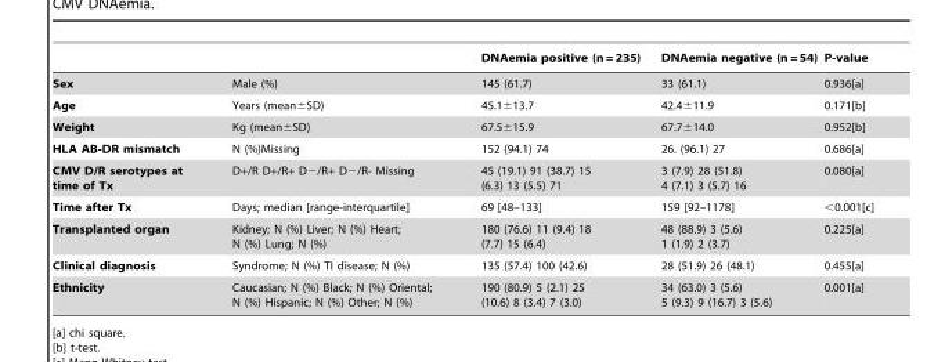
<table><thead><tr><td></td><td></td><td>DNAemia positive (n = 235)</td><td>DNAemia negative (n = 54)</td><td>P-value</td></tr></thead><tbody><tr><td>Sex</td><td>Male (%)</td><td>145 (61.7)</td><td>33 (61.1)</td><td>0.936[a]</td></tr><tr><td>Age</td><td>Years (mean±SD)</td><td>45.1±13.7</td><td>42.4±11.9</td><td>0.171[b]</td></tr><tr><td>Weight</td><td>Kg (mean±SD)</td><td>67.5±15.9</td><td>67.7±14.0</td><td>0.952[b]</td></tr><tr><td>HLA AB-DR mismatch</td><td>N (%)Missing</td><td>152 (94.1) 74</td><td>26. (96.1) 27</td><td>0.686[a]</td></tr><tr><td>CMV D/R serotypes at time of Tx</td><td>D+/R D+/R+ D−/R+ D−/R- Missing</td><td>45 (19.1) 91 (38.7) 15 (6.3) 13 (5.5) 71</td><td>3 (7.9) 28 (51.8) 4 (7.1) 3 (5.7) 16</td><td>0.080[a]</td></tr><tr><td>Time after Tx</td><td>Days; median [range-interquartile]</td><td>69 [48–133]</td><td>159 [92–1178]</td><td>&lt;0.001[c]</td></tr><tr><td>Transplanted organ</td><td>Kidney; N (%) Liver; N (%) Heart; N (%) Lung; N (%)</td><td>180 (76.6) 11 (9.4) 18 (7.7) 15 (6.4)</td><td>48 (88.9) 3 (5.6) 1 (1.9) 2 (3.7)</td><td>0.225[a]</td></tr><tr><td>Clinical diagnosis</td><td>Syndrome; N (%) TI disease; N (%)</td><td>135 (57.4) 100 (42.6)</td><td>28 (51.9) 26 (48.1)</td><td>0.455[a]</td></tr><tr><td>Ethnicity</td><td>Caucasian; N (%) Black; N (%) Oriental; N (%) Hispanic; N (%) Other; N (%)</td><td>190 (80.9) 5 (2.1) 25 (10.6) 8 (3.4) 7 (3.0)</td><td>34 (63.0) 3 (5.6) 5 (9.3) 9 (16.7) 3 (5.6)</td><td>0.001[a]</td></tr></tbody></table>